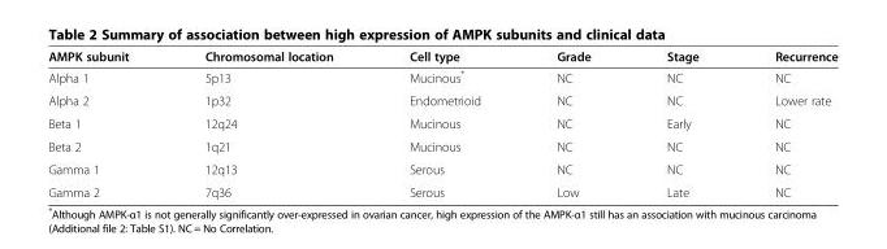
<table><thead><tr><td>AMPK subunit</td><td>Chromosomal location</td><td>Cell type</td><td>Grade</td><td>Stage</td><td>Recurrence</td></tr></thead><tbody><tr><td>Alpha 1</td><td>5p13</td><td>Mucinous*</td><td>NC</td><td>NC</td><td>NC</td></tr><tr><td>Alpha 2</td><td>1p32</td><td>Endometrioid</td><td>NC</td><td>NC</td><td>Lower rate</td></tr><tr><td>Beta 1</td><td>12q24</td><td>Mucinous</td><td>NC</td><td>Early</td><td>NC</td></tr><tr><td>Beta 2</td><td>1q21</td><td>Mucinous</td><td>NC</td><td>NC</td><td>NC</td></tr><tr><td>Gamma 1</td><td>12q13</td><td>Serous</td><td>NC</td><td>NC</td><td>NC</td></tr><tr><td>Gamma 2</td><td>7q36</td><td>Serous</td><td>Low</td><td>Late</td><td>NC</td></tr></tbody></table>